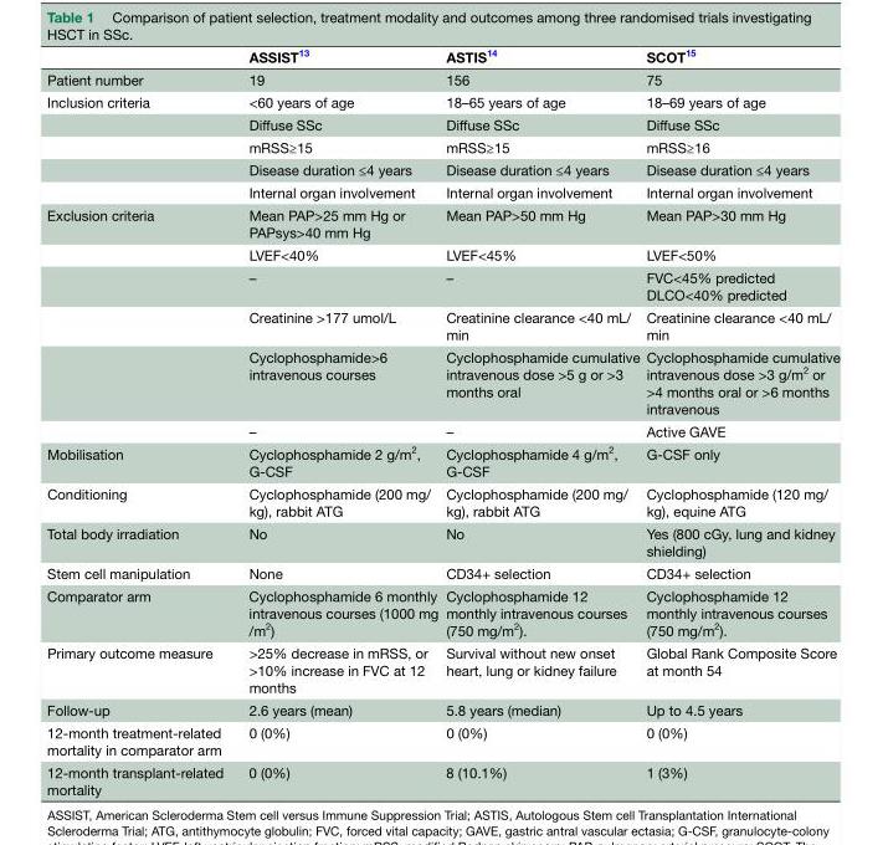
<table><thead><tr><td></td><td>ASSIST<sup>13</sup></td><td>ASTIS<sup>14</sup></td><td>SCOT<sup>15</sup></td></tr></thead><tbody><tr><td>Patient number</td><td>19</td><td>156</td><td>75</td></tr><tr><td rowspan="5">Inclusion criteria</td><td>&lt;60 years of age</td><td>18–65 years of age</td><td>18–69 years of age</td></tr><tr><td>Diffuse SSc</td><td>Diffuse SSc</td><td>Diffuse SSc</td></tr><tr><td>mRSS≥15</td><td>mRSS≥15</td><td>mRSS≥16</td></tr><tr><td>Disease duration ≤4 years</td><td>Disease duration ≤4 years</td><td>Disease duration ≤4 years</td></tr><tr><td>Internal organ involvement</td><td>Internal organ involvement</td><td>Internal organ involvement</td></tr><tr><td rowspan="6">Exclusion criteria</td><td>Mean PAP&gt;25 mm Hg or PAPsys&gt;40 mm Hg</td><td>Mean PAP&gt;50 mm Hg</td><td>Mean PAP&gt;30 mm Hg</td></tr><tr><td>LVEF&lt;40%</td><td>LVEF&lt;45%</td><td>LVEF&lt;50%</td></tr><tr><td>–</td><td>–</td><td>FVC&lt;45% predicted DLCO&lt;40% predicted</td></tr><tr><td>Creatinine &gt;177 umol/L</td><td>Creatinine clearance &lt;40 mL/ min</td><td>Creatinine clearance &lt;40 mL/ min</td></tr><tr><td>Cyclophosphamide&gt;6 intravenous courses</td><td>Cyclophosphamide cumulative intravenous dose &gt;5 g or &gt;3 months oral</td><td>Cyclophosphamide cumulative intravenous dose &gt;3 g/m<sup>2</sup> or &gt;4 months oral or &gt;6 months intravenous</td></tr><tr><td>–</td><td>–</td><td>Active GAVE</td></tr><tr><td>Mobilisation</td><td>Cyclophosphamide 2 g/m<sup>2</sup>, G-CSF</td><td>Cyclophosphamide 4 g/m<sup>2</sup>, G-CSF</td><td>G-CSF only</td></tr><tr><td>Conditioning</td><td>Cyclophosphamide (200 mg/ kg), rabbit ATG</td><td>Cyclophosphamide (200 mg/ kg), rabbit ATG</td><td>Cyclophosphamide (120 mg/ kg), equine ATG</td></tr><tr><td>Total body irradiation</td><td>No</td><td>No</td><td>Yes (800 cGy, lung and kidney shielding)</td></tr><tr><td>Stem cell manipulation</td><td>None</td><td>CD34+ selection</td><td>CD34+ selection</td></tr><tr><td>Comparator arm</td><td>Cyclophosphamide 6 monthly intravenous courses (1000 mg /m<sup>2</sup>)</td><td>Cyclophosphamide 12 monthly intravenous courses (750 mg/m<sup>2</sup>).</td><td>Cyclophosphamide 12 monthly intravenous courses (750 mg/m<sup>2</sup>).</td></tr><tr><td>Primary outcome measure</td><td>&gt;25% decrease in mRSS, or &gt;10% increase in FVC at 12 months</td><td>Survival without new onset heart, lung or kidney failure</td><td>Global Rank Composite Score at month 54</td></tr><tr><td>Follow-up</td><td>2.6 years (mean)</td><td>5.8 years (median)</td><td>Up to 4.5 years</td></tr><tr><td>12-month treatment-related mortality in comparator arm</td><td>0 (0%)</td><td>0 (0%)</td><td>0 (0%)</td></tr><tr><td>12-month transplant-related mortality</td><td>0 (0%)</td><td>8 (10.1%)</td><td>1 (3%)</td></tr></tbody></table>